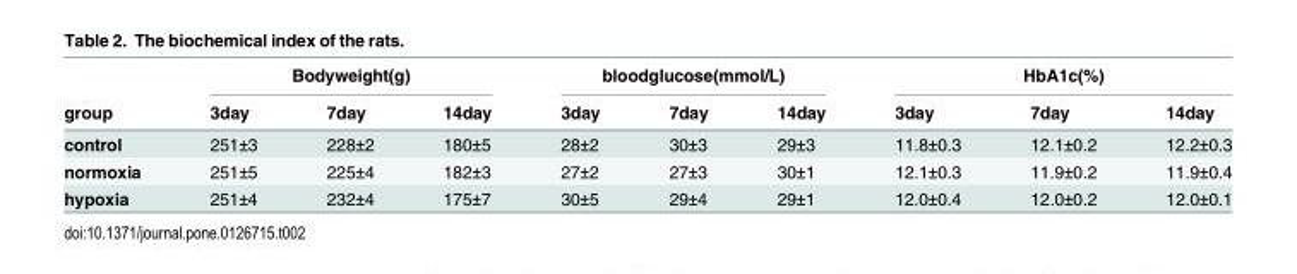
<table><thead><tr><td rowspan="2">group</td><td colspan="3">Bodyweight(g)</td><td colspan="3">bloodglucose(mmol/L)</td><td colspan="3">HbA1c(%)</td></tr><tr><td>3day</td><td>7day</td><td>14day</td><td>3day</td><td>7day</td><td>14day</td><td>3day</td><td>7day</td><td>14day</td></tr></thead><tbody><tr><td>control</td><td>251±3</td><td>228±2</td><td>180±5</td><td>28±2</td><td>30±3</td><td>29±3</td><td>11.8±0.3</td><td>12.1±0.2</td><td>12.2±0.3</td></tr><tr><td>normoxia</td><td>251±5</td><td>225±4</td><td>182±3</td><td>27±2</td><td>27±3</td><td>30±1</td><td>12.1±0.3</td><td>11.9±0.2</td><td>11.9±0.4</td></tr><tr><td>hypoxia</td><td>251±4</td><td>232±4</td><td>175±7</td><td>30±5</td><td>29±4</td><td>29±1</td><td>12.0±0.4</td><td>12.0±0.2</td><td>12.0±0.1</td></tr></tbody></table>